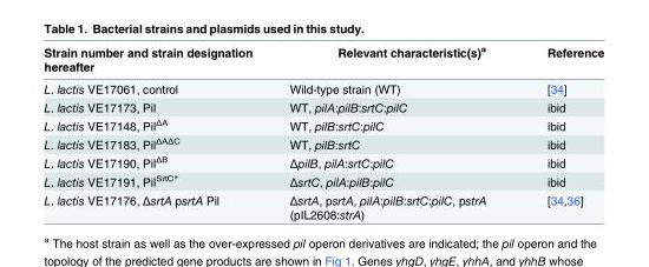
<table><thead><tr><td>Strain number and strain designation hereafter</td><td>Relevant characteristic(s)<sup>a</sup></td><td>Reference</td></tr></thead><tbody><tr><td>L. lactis VE17061, control</td><td>Wild-type strain (WT)</td><td>[34]</td></tr><tr><td>L. lactis VE17173, Pil</td><td>WT, pilA:pilB:srtC:pilC</td><td>ibid</td></tr><tr><td>L. lactis VE17148, Pil<sup>ΔA</sup></td><td>WT, pilB:srtC:pilC</td><td>ibid</td></tr><tr><td>L. lactis VE17183, Pil<sup>ΔAΔC</sup></td><td>WT, pilB:srtC</td><td>ibid</td></tr><tr><td>L. lactis VE17190, Pil<sup>ΔB</sup></td><td>ΔpilB, pilA:srtC:pilC</td><td>ibid</td></tr><tr><td>L. lactis VE17191, Pil<sup>SrtC*</sup></td><td>ΔsrtC, pilA:pilB:pilC</td><td>ibid</td></tr><tr><td>L. lactis VE17176, ΔsrtA psrtA Pil</td><td>ΔsrtA, psrtA, pilA:pilB:srtC:pilC, pstrA (pIL2608:strA)</td><td>[34,36]</td></tr></tbody></table>